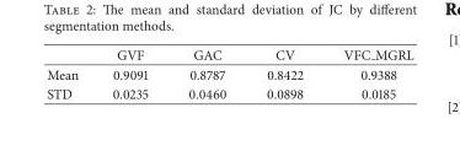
<table><thead><tr><td></td><td>GVF</td><td>GAC</td><td>CV</td><td>VFC MGRL</td></tr></thead><tbody><tr><td>Mean</td><td>0.9091</td><td>0.8787</td><td>0.8422</td><td>0.9388</td></tr><tr><td>STD</td><td>0.0235</td><td>0.0460</td><td>0.0898</td><td>0.0185</td></tr></tbody></table>